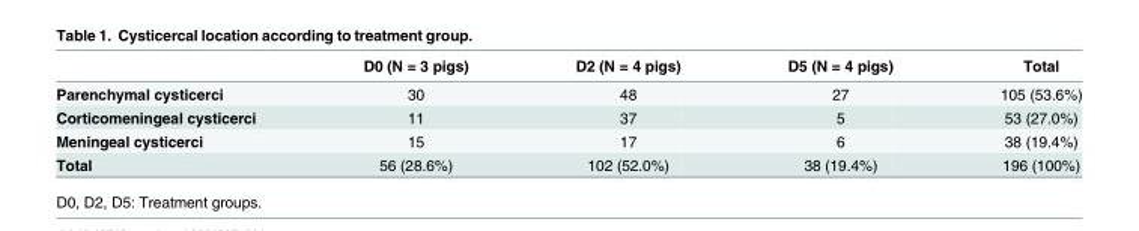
<table><thead><tr><td></td><td>D0 (N = 3 pigs)</td><td>D2 (N = 4 pigs)</td><td>D5 (N = 4 pigs)</td><td>Total</td></tr></thead><tbody><tr><td>Parenchymal cysticerci</td><td>30</td><td>48</td><td>27</td><td>105 (53.6%)</td></tr><tr><td>Corticomeningeal cysticerci</td><td>11</td><td>37</td><td>5</td><td>53 (27.0%)</td></tr><tr><td>Meningeal cysticerci</td><td>15</td><td>17</td><td>6</td><td>38 (19.4%)</td></tr><tr><td>Total</td><td>56 (28.6%)</td><td>102 (52.0%)</td><td>38 (19.4%)</td><td>196 (100%)</td></tr></tbody></table>